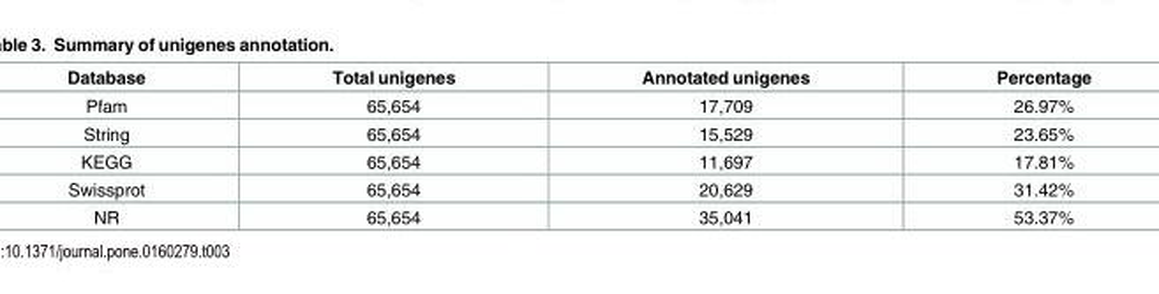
<table><thead><tr><td>Database</td><td>Total unigenes</td><td>Annotated unigenes</td><td>Percentage</td></tr></thead><tbody><tr><td>Pfam</td><td>65,654</td><td>17,709</td><td>26.97%</td></tr><tr><td>String</td><td>65,654</td><td>15,529</td><td>23.65%</td></tr><tr><td>KEGG</td><td>65,654</td><td>11,697</td><td>17.81%</td></tr><tr><td>Swissprot</td><td>65,654</td><td>20,629</td><td>31.42%</td></tr><tr><td>NR</td><td>65,654</td><td>35,041</td><td>53.37%</td></tr></tbody></table>